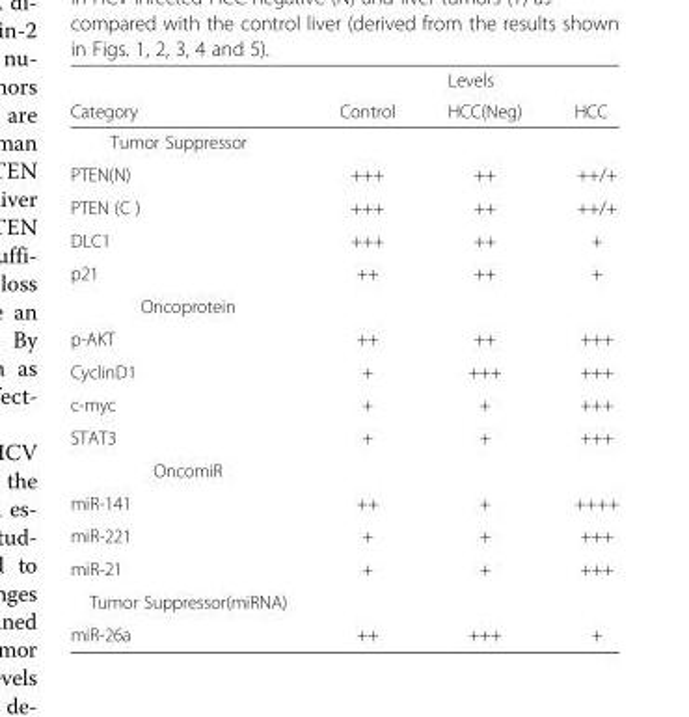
<table><thead><tr><td rowspan="2">Category</td><td rowspan="2">Control</td><td rowspan="2">Levels HCC(Neg)</td><td rowspan="2">HCC</td></tr><tr></tr></thead><tbody><tr><td colspan="4">Tumor Suppressor</td></tr><tr><td>PTEN(N)</td><td>+++</td><td>++</td><td>++/+</td></tr><tr><td>PTEN (C )</td><td>+++</td><td>++</td><td>++/+</td></tr><tr><td>DLC1</td><td>+++</td><td>++</td><td>+</td></tr><tr><td>p21</td><td>++</td><td>++</td><td>+</td></tr><tr><td colspan="4">Oncoprotein</td></tr><tr><td>p-AKT</td><td>++</td><td>++</td><td>+++</td></tr><tr><td>CyclinD1</td><td>+</td><td>+++</td><td>+++</td></tr><tr><td>c-myc</td><td>+</td><td>+</td><td>+++</td></tr><tr><td>STAT3</td><td>+</td><td>+</td><td>+++</td></tr><tr><td colspan="4">OncomiR</td></tr><tr><td>miR-141</td><td>++</td><td>+</td><td>++++</td></tr><tr><td>miR-221</td><td>+</td><td>+</td><td>+++</td></tr><tr><td>miR-21</td><td>+</td><td>+</td><td>+++</td></tr><tr><td colspan="4">Tumor Suppressor(miRNA)</td></tr><tr><td>miR-26a</td><td>++</td><td>+++</td><td>+</td></tr></tbody></table>